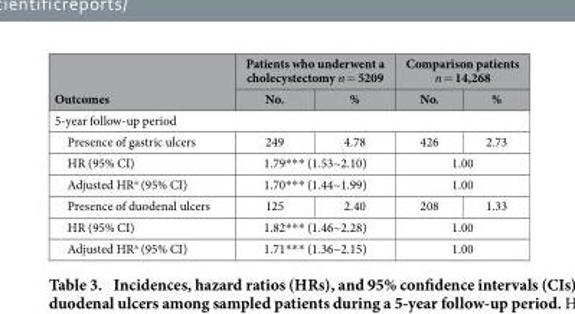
<table><thead><tr><td rowspan="2">Outcomes</td><td colspan="2">Patients who underwent a cholecystectomy n = 5209</td><td colspan="2">Comparison patients n = 14,268</td></tr><tr><td>No.</td><td>%</td><td>No.</td><td>%</td></tr></thead><tbody><tr><td colspan="5">5-year follow-up period</td></tr><tr><td>Presence of gastric ulcers</td><td>249</td><td>4.78</td><td>426</td><td>2.73</td></tr><tr><td>HR (95% CI)</td><td colspan="2">1.79* * * (1.53~2.10)</td><td colspan="2">1.00</td></tr><tr><td>Adjusted HR<sup>a</sup> (95% CI)</td><td colspan="2">1.70* * * (1.44~1.99)</td><td colspan="2">1.00</td></tr><tr><td>Presence of duodenal ulcers</td><td>125</td><td>2.40</td><td>208</td><td>1.33</td></tr><tr><td>HR (95% CI)</td><td colspan="2">1.82* * * (1.46~2.28)</td><td colspan="2">1.00</td></tr><tr><td>Adjusted HR<sup>a</sup> (95% CI)</td><td colspan="2">1.71* * * (1.36~2.15)</td><td colspan="2">1.00</td></tr></tbody></table>